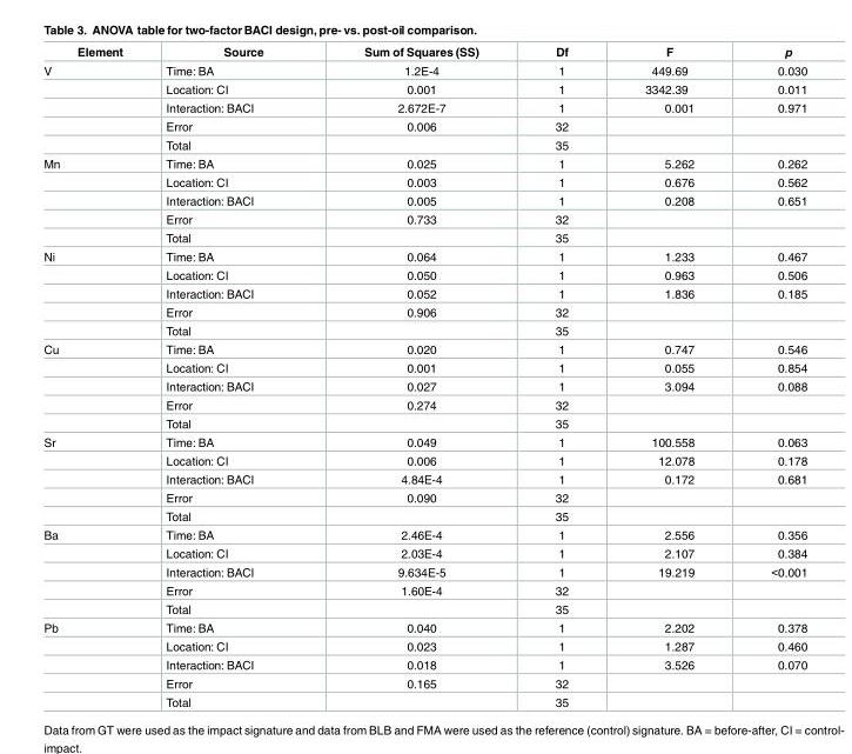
<table><thead><tr><td>Element</td><td>Source</td><td>Sum of Squares (SS)</td><td>Df</td><td>F</td><td>p</td></tr></thead><tbody><tr><td rowspan="5">V</td><td>Time: BA</td><td>1.2E-4</td><td>1</td><td>449.69</td><td>0.030</td></tr><tr><td>Location: CI</td><td>0.001</td><td>1</td><td>3342.39</td><td>0.011</td></tr><tr><td>Interaction: BACI</td><td>2.672E-7</td><td>1</td><td>0.001</td><td>0.971</td></tr><tr><td>Error</td><td>0.006</td><td>32</td><td></td><td></td></tr><tr><td>Total</td><td></td><td>35</td><td></td><td></td></tr><tr><td rowspan="5">Mn</td><td>Time: BA</td><td>0.025</td><td>1</td><td>5.262</td><td>0.262</td></tr><tr><td>Location: CI</td><td>0.003</td><td>1</td><td>0.676</td><td>0.562</td></tr><tr><td>Interaction: BACI</td><td>0.005</td><td>1</td><td>0.208</td><td>0.651</td></tr><tr><td>Error</td><td>0.733</td><td>32</td><td></td><td></td></tr><tr><td>Total</td><td></td><td>35</td><td></td><td></td></tr><tr><td rowspan="5">Ni</td><td>Time: BA</td><td>0.064</td><td>1</td><td>1.233</td><td>0.467</td></tr><tr><td>Location: CI</td><td>0.050</td><td>1</td><td>0.963</td><td>0.506</td></tr><tr><td>Interaction: BACI</td><td>0.052</td><td>1</td><td>1.836</td><td>0.185</td></tr><tr><td>Error</td><td>0.906</td><td>32</td><td></td><td></td></tr><tr><td>Total</td><td></td><td>35</td><td></td><td></td></tr><tr><td rowspan="5">Cu</td><td>Time: BA</td><td>0.020</td><td>1</td><td>0.747</td><td>0.546</td></tr><tr><td>Location: CI</td><td>0.001</td><td>1</td><td>0.055</td><td>0.854</td></tr><tr><td>Interaction: BACI</td><td>0.027</td><td>1</td><td>3.094</td><td>0.088</td></tr><tr><td>Error</td><td>0.274</td><td>32</td><td></td><td></td></tr><tr><td>Total</td><td></td><td>35</td><td></td><td></td></tr><tr><td rowspan="5">Sr</td><td>Time: BA</td><td>0.049</td><td>1</td><td>100.558</td><td>0.063</td></tr><tr><td>Location: CI</td><td>0.006</td><td>1</td><td>12.078</td><td>0.178</td></tr><tr><td>Interaction: BACI</td><td>4.84E-4</td><td>1</td><td>0.172</td><td>0.681</td></tr><tr><td>Error</td><td>0.090</td><td>32</td><td></td><td></td></tr><tr><td>Total</td><td></td><td>35</td><td></td><td></td></tr><tr><td rowspan="5">Ba</td><td>Time: BA</td><td>2.46E-4</td><td>1</td><td>2.556</td><td>0.356</td></tr><tr><td>Location: CI</td><td>2.03E-4</td><td>1</td><td>2.107</td><td>0.384</td></tr><tr><td>Interaction: BACI</td><td>9.634E-5</td><td>1</td><td>19.219</td><td>&lt;0.001</td></tr><tr><td>Error</td><td>1.60E-4</td><td>32</td><td></td><td></td></tr><tr><td>Total</td><td></td><td>35</td><td></td><td></td></tr><tr><td rowspan="5">Pb</td><td>Time: BA</td><td>0.040</td><td>1</td><td>2.202</td><td>0.378</td></tr><tr><td>Location: CI</td><td>0.023</td><td>1</td><td>1.287</td><td>0.460</td></tr><tr><td>Interaction: BACI</td><td>0.018</td><td>1</td><td>3.526</td><td>0.070</td></tr><tr><td>Error</td><td>0.165</td><td>32</td><td></td><td></td></tr><tr><td>Total</td><td></td><td>35</td><td></td><td></td></tr></tbody></table>